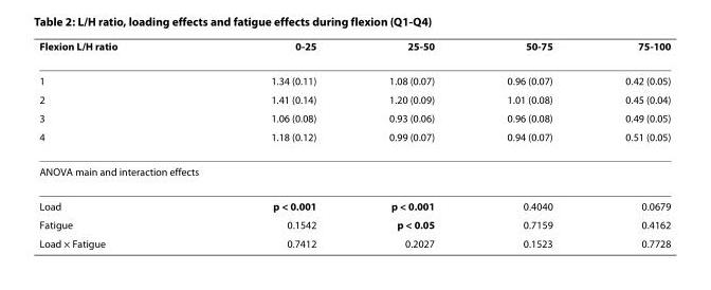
<table><thead><tr><td>Flexion L/H ratio</td><td>0-25</td><td>25-50</td><td>50-75</td><td>75-100</td></tr></thead><tbody><tr><td>1</td><td>1.34 (0.11)</td><td>1.08 (0.07)</td><td>0.96 (0.07)</td><td>0.42 (0.05)</td></tr><tr><td>2</td><td>1.41 (0.14)</td><td>1.20 (0.09)</td><td>1.01 (0.08)</td><td>0.45 (0.04)</td></tr><tr><td>3</td><td>1.06 (0.08)</td><td>0.93 (0.06)</td><td>0.96 (0.08)</td><td>0.49 (0.05)</td></tr><tr><td>4</td><td>1.18 (0.12)</td><td>0.99 (0.07)</td><td>0.94 (0.07)</td><td>0.51 (0.05)</td></tr><tr><td colspan="5">ANOVA main and interaction effects</td></tr><tr><td>Load</td><td>p &lt; 0.001</td><td>p &lt; 0.001</td><td>0.4040</td><td>0.0679</td></tr><tr><td>Fatigue</td><td>0.1542</td><td>p &lt; 0.05</td><td>0.7159</td><td>0.4162</td></tr><tr><td>Load × Fatigue</td><td>0.7412</td><td>0.2027</td><td>0.1523</td><td>0.7728</td></tr></tbody></table>